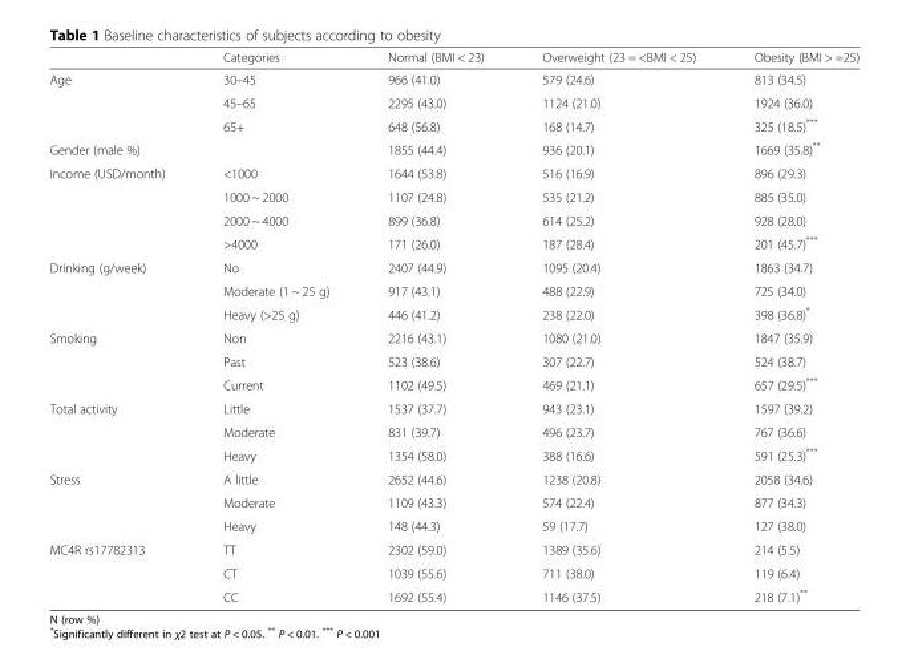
<table><thead><tr><td></td><td>Categories</td><td>Normal (BMI &lt; 23)</td><td>Overweight (23 = &lt;BMI &lt; 25)</td><td>Obesity (BMI &gt; =25)</td></tr></thead><tbody><tr><td rowspan="3">Age</td><td>30–45</td><td>966 (41.0)</td><td>579 (24.6)</td><td>813 (34.5)</td></tr><tr><td>45–65</td><td>2295 (43.0)</td><td>1124 (21.0)</td><td>1924 (36.0)</td></tr><tr><td>65+</td><td>648 (56.8)</td><td>168 (14.7)</td><td>325 (18.5)***</td></tr><tr><td colspan="2">Gender (male %)</td><td>1855 (44.4)</td><td>936 (20.1)</td><td>1669 (35.8)**</td></tr><tr><td rowspan="4">Income (USD/month)</td><td>&lt;1000</td><td>1644 (53.8)</td><td>516 (16.9)</td><td>896 (29.3)</td></tr><tr><td>1000 ~ 2000</td><td>1107 (24.8)</td><td>535 (21.2)</td><td>885 (35.0)</td></tr><tr><td>2000 ~ 4000</td><td>899 (36.8)</td><td>614 (25.2)</td><td>928 (28.0)</td></tr><tr><td>&gt;4000</td><td>171 (26.0)</td><td>187 (28.4)</td><td>201 (45.7)***</td></tr><tr><td rowspan="3">Drinking (g/week)</td><td>No</td><td>2407 (44.9)</td><td>1095 (20.4)</td><td>1863 (34.7)</td></tr><tr><td>Moderate (1 ~ 25 g)</td><td>917 (43.1)</td><td>488 (22.9)</td><td>725 (34.0)</td></tr><tr><td>Heavy (&gt;25 g)</td><td>446 (41.2)</td><td>238 (22.0)</td><td>398 (36.8)*</td></tr><tr><td rowspan="3">Smoking</td><td>Non</td><td>2216 (43.1)</td><td>1080 (21.0)</td><td>1847 (35.9)</td></tr><tr><td>Past</td><td>523 (38.6)</td><td>307 (22.7)</td><td>524 (38.7)</td></tr><tr><td>Current</td><td>1102 (49.5)</td><td>469 (21.1)</td><td>657 (29.5)***</td></tr><tr><td rowspan="3">Total activity</td><td>Little</td><td>1537 (37.7)</td><td>943 (23.1)</td><td>1597 (39.2)</td></tr><tr><td>Moderate</td><td>831 (39.7)</td><td>496 (23.7)</td><td>767 (36.6)</td></tr><tr><td>Heavy</td><td>1354 (58.0)</td><td>388 (16.6)</td><td>591 (25.3)***</td></tr><tr><td rowspan="3">Stress</td><td>A little</td><td>2652 (44.6)</td><td>1238 (20.8)</td><td>2058 (34.6)</td></tr><tr><td>Moderate</td><td>1109 (43.3)</td><td>574 (22.4)</td><td>877 (34.3)</td></tr><tr><td>Heavy</td><td>148 (44.3)</td><td>59 (17.7)</td><td>127 (38.0)</td></tr><tr><td rowspan="3">MC4R rs17782313</td><td>TT</td><td>2302 (59.0)</td><td>1389 (35.6)</td><td>214 (5.5)</td></tr><tr><td>CT</td><td>1039 (55.6)</td><td>711 (38.0)</td><td>119 (6.4)</td></tr><tr><td>CC</td><td>1692 (55.4)</td><td>1146 (37.5)</td><td>218 (7.1)**</td></tr></tbody></table>